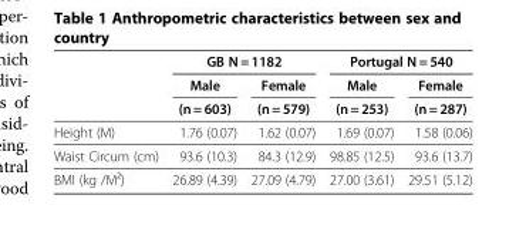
<table><thead><tr><td rowspan="3"></td><td colspan="2">GB N = 1182</td><td colspan="2">Portugal N = 540</td></tr><tr><td rowspan="2">Male (n = 603)</td><td rowspan="2">Female (n = 579)</td><td rowspan="2">Male (n = 253)</td><td rowspan="2">Female (n = 287)</td></tr><tr></tr></thead><tbody><tr><td>Height (M)</td><td>1.76 (0.07)</td><td>1.62 (0.07)</td><td>1.69 (0.07)</td><td>1.58 (0.06)</td></tr><tr><td>Waist Circum (cm)</td><td>93.6 (10.3)</td><td>84.3 (12.9)</td><td>98.85 (12.5)</td><td>93.6 (13.7)</td></tr><tr><td>BMI (kg /M²)</td><td>26.89 (4.39)</td><td>27.09 (4.79)</td><td>27.00 (3.61)</td><td>29.51 (5.12)</td></tr></tbody></table>